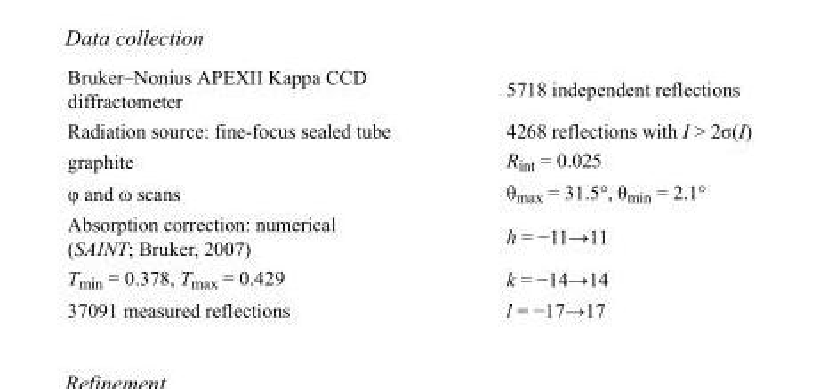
<table><tbody><tr><td>Bruker–Nonius APEXII Kappa CCD diffractometer</td><td>5718 independent reflections</td></tr><tr><td>Radiation source: fine-focus sealed tube</td><td>4268 reflections with I &gt; 2σ(I)</td></tr><tr><td>graphite</td><td>R<sub>int</sub> = 0.025</td></tr><tr><td>φ and ω scans</td><td>θ<sub>max</sub> = 31.5°, θ<sub>min</sub> = 2.1°</td></tr><tr><td>Absorption correction: numerical (SAINT; Bruker, 2007)</td><td>h = −11→11</td></tr><tr><td>T<sub>min</sub> = 0.378, T<sub>max</sub> = 0.429</td><td>k = −14→14</td></tr><tr><td>37091 measured reflections</td><td>l = −17→17</td></tr></tbody></table>